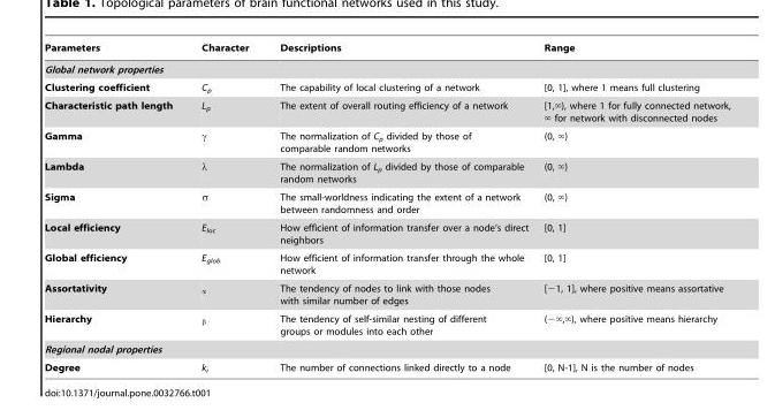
<table><thead><tr><td>Parameters</td><td>Character</td><td>Descriptions</td><td>Range</td></tr></thead><tbody><tr><td colspan="4">Global network properties</td></tr><tr><td>Clustering coefficient</td><td>C<sub>p</sub></td><td>The capability of local clustering of a network</td><td>[0, 1], where 1 means full clustering</td></tr><tr><td>Characteristic path length</td><td>L<sub>p</sub></td><td>The extent of overall routing efficiency of a network</td><td>[1,‘), where 1 for fully connected network, ‘ for network with disconnected nodes</td></tr><tr><td>Gamma</td><td>γ</td><td>The normalization of C<sub>p</sub> divided by those of comparable random networks</td><td>(0, ‘)</td></tr><tr><td>Lambda</td><td>λ</td><td>The normalization of L<sub>p</sub> divided by those of comparable random networks</td><td>(0, ‘)</td></tr><tr><td>Sigma</td><td>σ</td><td>The small-worldness indicating the extent of a network between randomness and order</td><td>(0, ‘)</td></tr><tr><td>Local efficiency</td><td>E<sub>loc</sub></td><td>How efficient of information transfer over a node’s direct neighbors</td><td>[0, 1]</td></tr><tr><td>Global efficiency</td><td>E<sub>glob</sub></td><td>How efficient of information transfer through the whole network</td><td>[0, 1]</td></tr><tr><td>Assortativity</td><td><sub>α</sub></td><td>The tendency of nodes to link with those nodes with similar number of edges</td><td>[−1, 1], where positive means assortative</td></tr><tr><td>Hierarchy</td><td><sub>β</sub></td><td>The tendency of self-similar nesting of different groups or modules into each other</td><td>(2‘,‘), where positive means hierarchy</td></tr><tr><td colspan="4">Regional nodal properties</td></tr><tr><td>Degree</td><td>k<sub>i</sub></td><td>The number of connections linked directly to a node</td><td>[0, N-1], N is the number of nodes</td></tr></tbody></table>